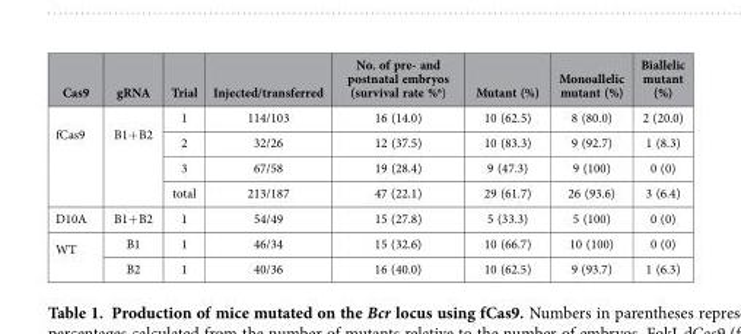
<table><thead><tr><td>Cas9</td><td>gRNA</td><td>Trial</td><td>Injected/transferred</td><td>No. of pre- and postnatal embryos (survival rate %<sup>a</sup>)</td><td>Mutant (%)</td><td>Monoallelic mutant (%)</td><td>Biallelic mutant (%)</td></tr></thead><tbody><tr><td rowspan="4">fCas9</td><td rowspan="4">B1+ B2</td><td>1</td><td>114/103</td><td>16 (14.0)</td><td>10 (62.5)</td><td>8 (80.0)</td><td>2 (20.0)</td></tr><tr><td>2</td><td>32/26</td><td>12 (37.5)</td><td>10 (83.3)</td><td>9 (92.7)</td><td>1 (8.3)</td></tr><tr><td>3</td><td>67/58</td><td>19 (28.4)</td><td>9 (47.3)</td><td>9 (100)</td><td>0 (0)</td></tr><tr><td>total</td><td>213/187</td><td>47 (22.1)</td><td>29 (61.7)</td><td>26 (93.6)</td><td>3 (6.4)</td></tr><tr><td>D10A</td><td>B1+ B2</td><td>1</td><td>54/49</td><td>15 (27.8)</td><td>5 (33.3)</td><td>5 (100)</td><td>0 (0)</td></tr><tr><td rowspan="2">WT</td><td>B1</td><td>1</td><td>46/34</td><td>15 (32.6)</td><td>10 (66.7)</td><td>10 (100)</td><td>0 (0)</td></tr><tr><td>B2</td><td>1</td><td>40/36</td><td>16 (40.0)</td><td>10 (62.5)</td><td>9 (93.7)</td><td>1 (6.3)</td></tr></tbody></table>